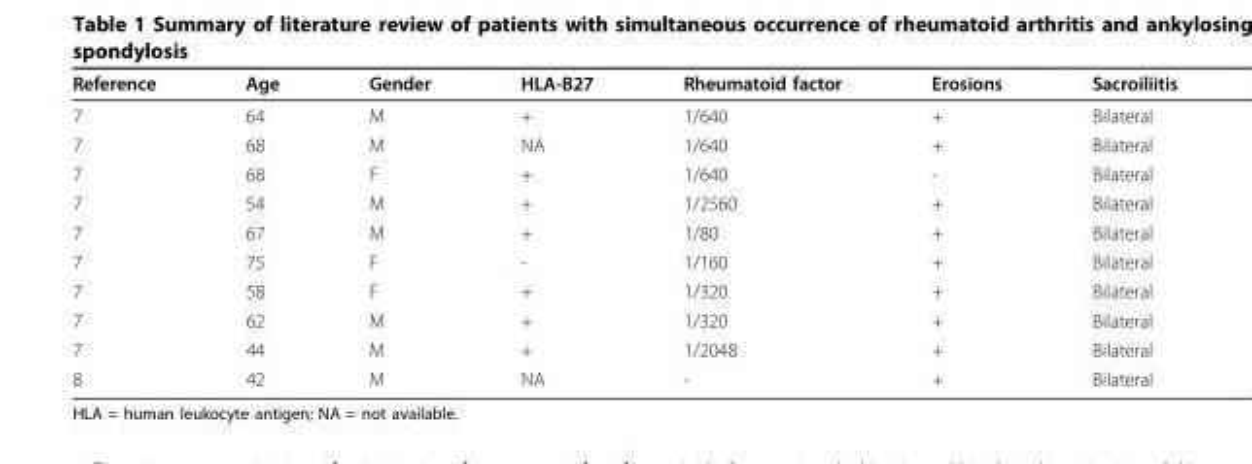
<table><thead><tr><td>Reference</td><td>Age</td><td>Gender</td><td>HLA-B27</td><td>Rheumatoid factor</td><td>Erosions</td><td>Sacroiliitis</td></tr></thead><tbody><tr><td>7</td><td>64</td><td>M</td><td>+</td><td>1/640</td><td>+</td><td>Bilateral</td></tr><tr><td>7</td><td>68</td><td>M</td><td>NA</td><td>1/640</td><td>+</td><td>Bilateral</td></tr><tr><td>7</td><td>68</td><td>F</td><td>+</td><td>1/640</td><td>-</td><td>Bilateral</td></tr><tr><td>7</td><td>54</td><td>M</td><td>+</td><td>1/2560</td><td>+</td><td>Bilateral</td></tr><tr><td>7</td><td>67</td><td>M</td><td>+</td><td>1/80</td><td>+</td><td>Bilateral</td></tr><tr><td>7</td><td>75</td><td>F</td><td>-</td><td>1/160</td><td>+</td><td>Bilateral</td></tr><tr><td>7</td><td>58</td><td>F</td><td>+</td><td>1/320</td><td>+</td><td>Bilateral</td></tr><tr><td>7</td><td>62</td><td>M</td><td>+</td><td>1/320</td><td>+</td><td>Bilateral</td></tr><tr><td>7</td><td>44</td><td>M</td><td>+</td><td>1/2048</td><td>+</td><td>Bilateral</td></tr><tr><td>8</td><td>42</td><td>M</td><td>NA</td><td>-</td><td>+</td><td>Bilateral</td></tr></tbody></table>